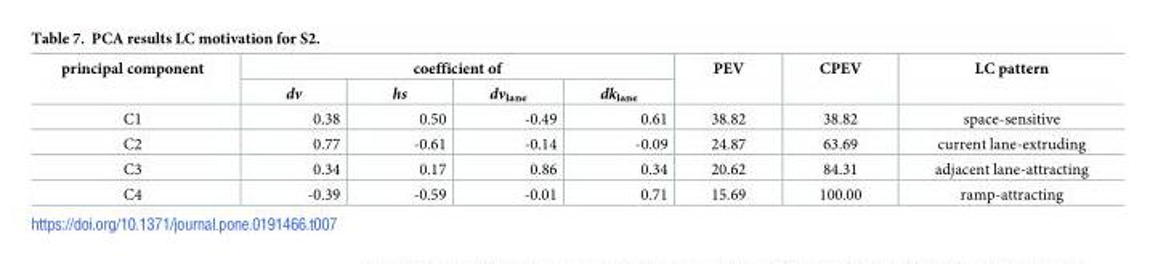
<table><thead><tr><td rowspan="2">principal component</td><td colspan="4">coefficient of</td><td rowspan="2">PEV</td><td rowspan="2">CPEV</td><td rowspan="2">LC pattern</td></tr><tr><td>dv</td><td>hs</td><td>dv<sub>lane</sub></td><td>dk<sub>lane</sub></td></tr></thead><tbody><tr><td>C1</td><td>0.38</td><td>0.50</td><td>-0.49</td><td>0.61</td><td>38.82</td><td>38.82</td><td>space-sensitive</td></tr><tr><td>C2</td><td>0.77</td><td>-0.61</td><td>-0.14</td><td>-0.09</td><td>24.87</td><td>63.69</td><td>current lane-extruding</td></tr><tr><td>C3</td><td>0.34</td><td>0.17</td><td>0.86</td><td>0.34</td><td>20.62</td><td>84.31</td><td>adjacent lane-attracting</td></tr><tr><td>C4</td><td>-0.39</td><td>-0.59</td><td>-0.01</td><td>0.71</td><td>15.69</td><td>100.00</td><td>ramp-attracting</td></tr></tbody></table>